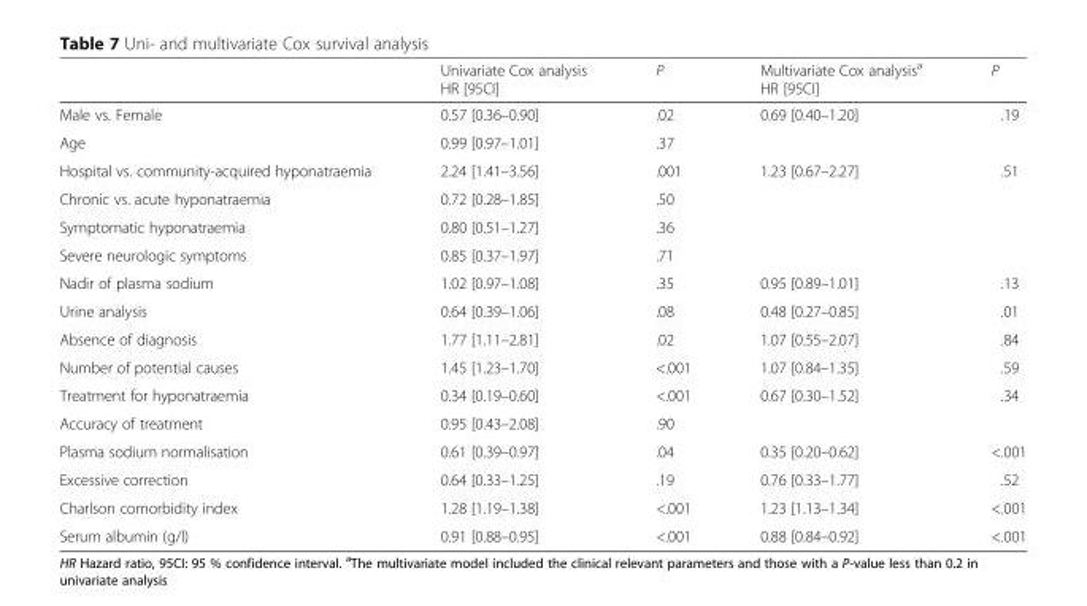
<table><thead><tr><td></td><td>Univariate Cox analysis HR [95CI]</td><td>P</td><td>Multivariate Cox analysis<sup>a</sup> HR [95CI]</td><td>P</td></tr></thead><tbody><tr><td>Male vs. Female</td><td>0.57 [0.36–0.90]</td><td>.02</td><td>0.69 [0.40–1.20]</td><td>.19</td></tr><tr><td>Age</td><td>0.99 [0.97–1.01]</td><td>.37</td><td></td><td></td></tr><tr><td>Hospital vs. community-acquired hyponatraemia</td><td>2.24 [1.41–3.56]</td><td>.001</td><td>1.23 [0.67–2.27]</td><td>.51</td></tr><tr><td>Chronic vs. acute hyponatraemia</td><td>0.72 [0.28–1.85]</td><td>.50</td><td></td><td></td></tr><tr><td>Symptomatic hyponatraemia</td><td>0.80 [0.51–1.27]</td><td>.36</td><td></td><td></td></tr><tr><td>Severe neurologic symptoms</td><td>0.85 [0.37–1.97]</td><td>.71</td><td></td><td></td></tr><tr><td>Nadir of plasma sodium</td><td>1.02 [0.97–1.08]</td><td>.35</td><td>0.95 [0.89–1.01]</td><td>.13</td></tr><tr><td>Urine analysis</td><td>0.64 [0.39–1.06]</td><td>.08</td><td>0.48 [0.27–0.85]</td><td>.01</td></tr><tr><td>Absence of diagnosis</td><td>1.77 [1.11–2.81]</td><td>.02</td><td>1.07 [0.55–2.07]</td><td>.84</td></tr><tr><td>Number of potential causes</td><td>1.45 [1.23–1.70]</td><td>&lt;.001</td><td>1.07 [0.84–1.35]</td><td>.59</td></tr><tr><td>Treatment for hyponatraemia</td><td>0.34 [0.19–0.60]</td><td>&lt;.001</td><td>0.67 [0.30–1.52]</td><td>.34</td></tr><tr><td>Accuracy of treatment</td><td>0.95 [0.43–2.08]</td><td>.90</td><td></td><td></td></tr><tr><td>Plasma sodium normalisation</td><td>0.61 [0.39–0.97]</td><td>.04</td><td>0.35 [0.20–0.62]</td><td>&lt;.001</td></tr><tr><td>Excessive correction</td><td>0.64 [0.33–1.25]</td><td>.19</td><td>0.76 [0.33–1.77]</td><td>.52</td></tr><tr><td>Charlson comorbidity index</td><td>1.28 [1.19–1.38]</td><td>&lt;.001</td><td>1.23 [1.13–1.34]</td><td>&lt;.001</td></tr><tr><td>Serum albumin (g/l)</td><td>0.91 [0.88–0.95]</td><td>&lt;.001</td><td>0.88 [0.84–0.92]</td><td>&lt;.001</td></tr></tbody></table>